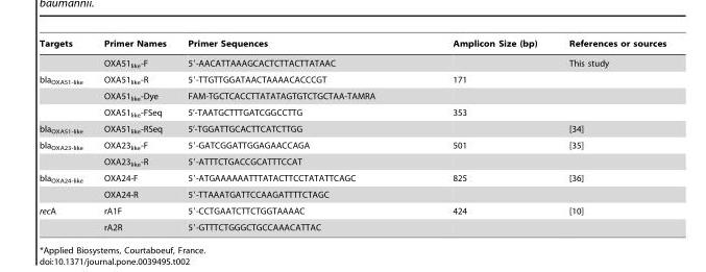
<table><thead><tr><td>Targets</td><td>Primer Names</td><td>Primer Sequences</td><td>Amplicon Size (bp)</td><td>References or sources</td></tr></thead><tbody><tr><td></td><td>OXA51like-F</td><td>5′-AACATTAAAGCACTCTTACTTATAAC</td><td></td><td>This study</td></tr><tr><td rowspan="3">blaOXA51-like</td><td>OXA51like-R</td><td>5′-TTGTTGGATAACTAAAACACCCGT</td><td>171</td><td></td></tr><tr><td>OXA51like-Dye</td><td>FAM-TGCTCACCTTATATAGTGTCTGCTAA-TAMRA</td><td></td><td></td></tr><tr><td>OXA51like-FSeq</td><td>5’-TAATGCTTTGATCGGCCTTG</td><td>353</td><td></td></tr><tr><td>blaOXA51-like</td><td>OXA51like-RSeq</td><td>5’-TGGATTGCACTTCATCTTGG</td><td></td><td>[34]</td></tr><tr><td rowspan="2">blaOXA23-like</td><td>OXA23like-F</td><td>5′-GATCGGATTGGAGAACCAGA</td><td>501</td><td>[35]</td></tr><tr><td>OXA23like-R</td><td>5′-ATTTCTGACCGCATTTCCAT</td><td></td><td></td></tr><tr><td rowspan="2">blaOXA24-like</td><td>OXA24-F</td><td>5′-ATGAAAAAATTTATACTTCCTATATTCAGC</td><td>825</td><td>[36]</td></tr><tr><td>OXA24-R</td><td>5′-TTAAATGATTCCAAGATTTTCTAGC</td><td></td><td></td></tr><tr><td rowspan="2">recA</td><td>rA1F</td><td>5′-CCTGAATCTTCTGGTAAAAC</td><td>424</td><td>[10]</td></tr><tr><td>rA2R</td><td>5′-GTTTCTGGGCTGCCAAACATTAC</td><td></td><td></td></tr></tbody></table>